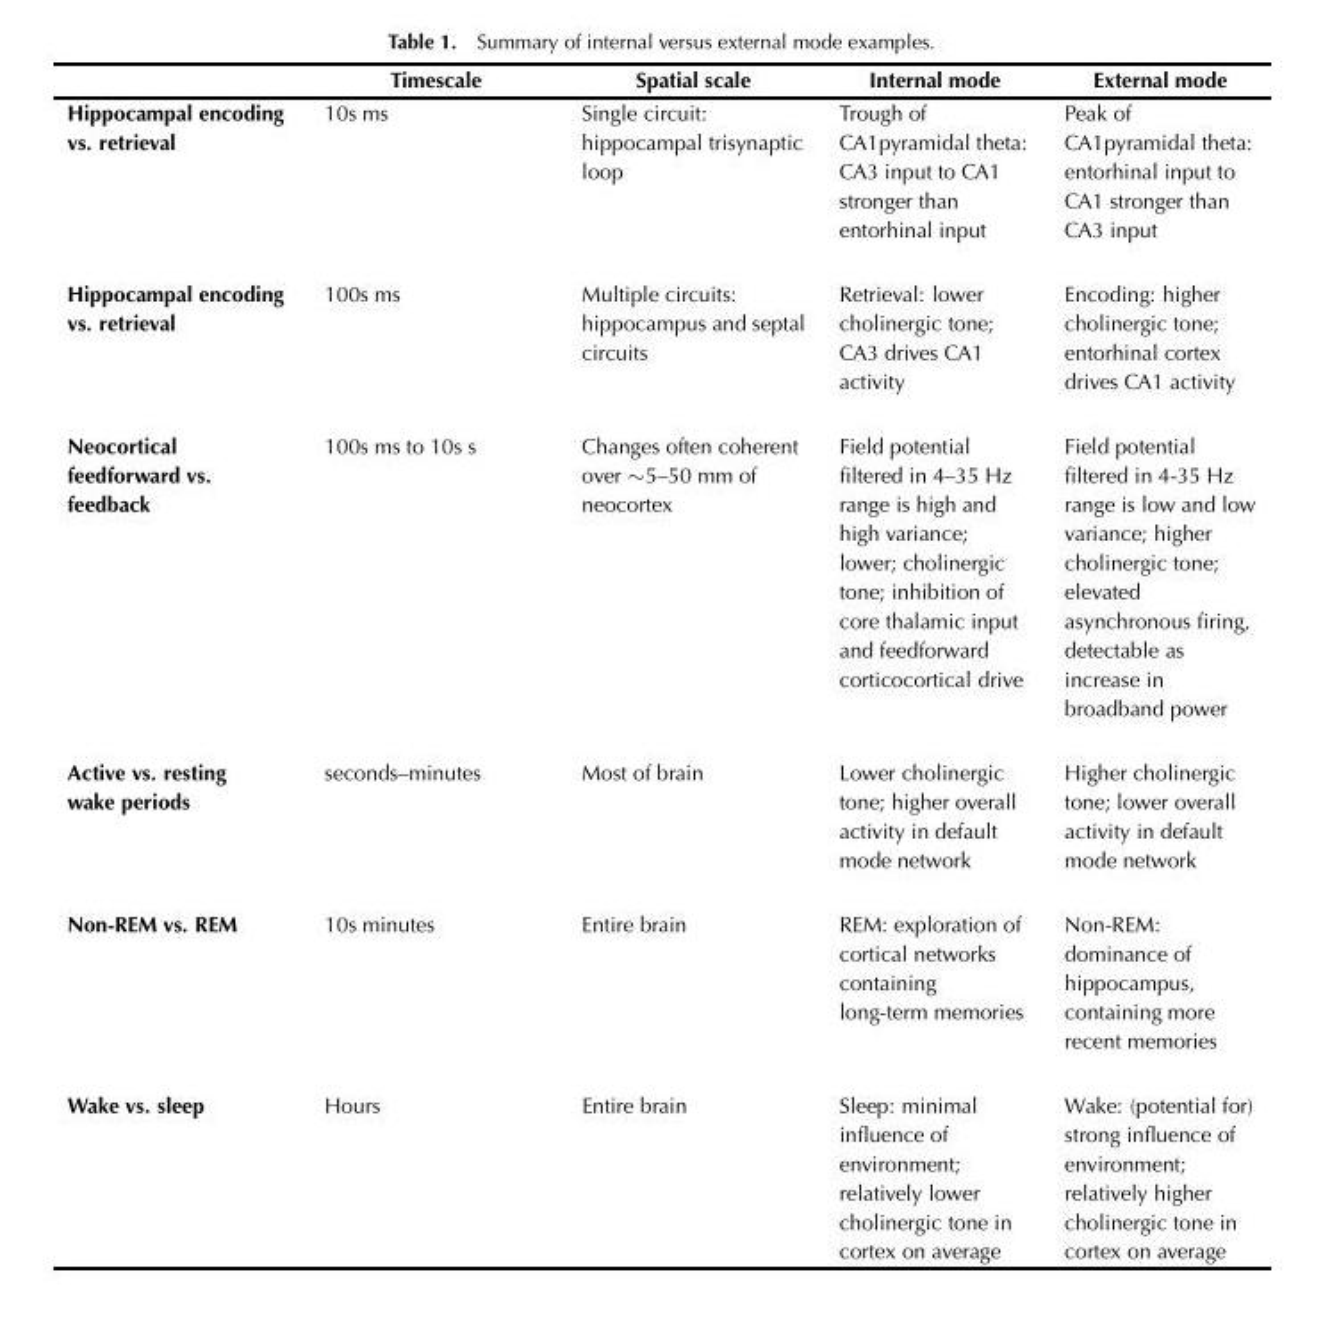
<table><thead><tr><td></td><td>Timescale</td><td>Spatial scale</td><td>Internal mode</td><td>External mode</td></tr></thead><tbody><tr><td>Hippocampal encoding vs. retrieval</td><td>10s ms</td><td>Single circuit: hippocampal trisynaptic loop</td><td>Trough of CA1pyramidal theta: CA3 input to CA1 stronger than entorhinal input</td><td>Peak of CA1pyramidal theta: entorhinal input to CA1 stronger than CA3 input</td></tr><tr><td>Hippocampal encoding vs. retrieval</td><td>100s ms</td><td>Multiple circuits: hippocampus and septal circuits</td><td>Retrieval: lower cholinergic tone; CA3 drives CA1 activity</td><td>Encoding: higher cholinergic tone; entorhinal cortex drives CA1 activity</td></tr><tr><td>Neocortical feedforward vs. feedback</td><td>100s ms to 10s s</td><td>Changes often coherent over ∼5–50 mm of neocortex</td><td>Field potential filtered in 4–35 Hz range is high and high variance; lower; cholinergic tone; inhibition of core thalamic input and feedforward corticocortical drive</td><td>Field potential filtered in 4-35 Hz range is low and low variance; higher cholinergic tone; elevated asynchronous firing, detectable as increase in broadband power</td></tr><tr><td>Active vs. resting wake periods</td><td>seconds–minutes</td><td>Most of brain</td><td>Lower cholinergic tone; higher overall activity in default mode network</td><td>Higher cholinergic tone; lower overall activity in default mode network</td></tr><tr><td>Non-REM vs. REM</td><td>10s minutes</td><td>Entire brain</td><td>REM: exploration of cortical networks containing long-term memories</td><td>Non-REM: dominance of hippocampus, containing more recent memories</td></tr><tr><td>Wake vs. sleep</td><td>Hours</td><td>Entire brain</td><td>Sleep: minimal influence of environment; relatively lower cholinergic tone in cortex on average</td><td>Wake: (potential for) strong influence of environment; relatively higher cholinergic tone in cortex on average</td></tr></tbody></table>